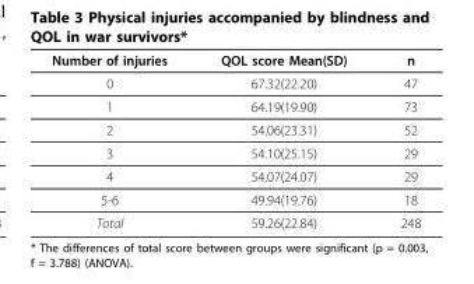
<table><thead><tr><td>Number of injuries</td><td>QOL score Mean(SD)</td><td>n</td></tr></thead><tbody><tr><td>0</td><td>67.32(22.20)</td><td>47</td></tr><tr><td>1</td><td>64.19(19.90)</td><td>73</td></tr><tr><td>2</td><td>54.06(23.31)</td><td>52</td></tr><tr><td>3</td><td>54.10(25.15)</td><td>29</td></tr><tr><td>4</td><td>54.07(24.07)</td><td>29</td></tr><tr><td>5-6</td><td>49.94(19.76)</td><td>18</td></tr><tr><td>Total</td><td>59.26(22.84)</td><td>248</td></tr></tbody></table>